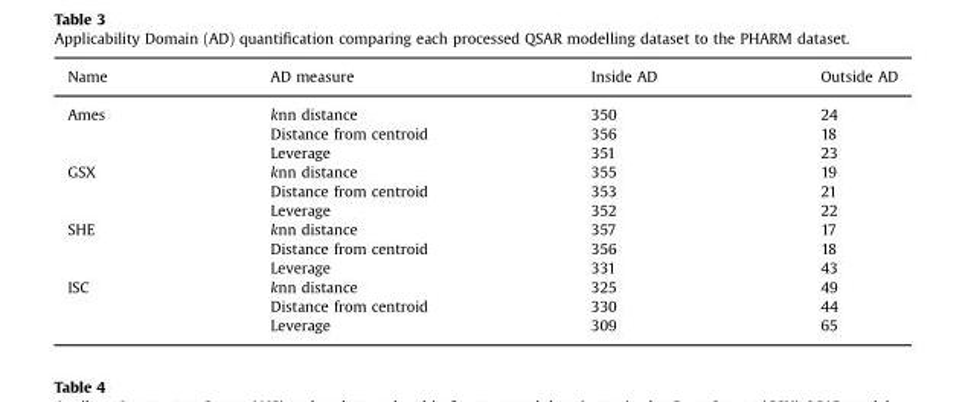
<table><thead><tr><td>Name</td><td>AD measure</td><td>Inside AD</td><td>Outside AD</td></tr></thead><tbody><tr><td rowspan="3">Ames</td><td>knn distance</td><td>350</td><td>24</td></tr><tr><td>Distance from centroid</td><td>356</td><td>18</td></tr><tr><td>Leverage</td><td>351</td><td>23</td></tr><tr><td rowspan="3">GSX</td><td>knn distance</td><td>355</td><td>19</td></tr><tr><td>Distance from centroid</td><td>353</td><td>21</td></tr><tr><td>Leverage</td><td>352</td><td>22</td></tr><tr><td rowspan="3">SHE</td><td>knn distance</td><td>357</td><td>17</td></tr><tr><td>Distance from centroid</td><td>356</td><td>18</td></tr><tr><td>Leverage</td><td>331</td><td>43</td></tr><tr><td rowspan="3">ISC</td><td>knn distance</td><td>325</td><td>49</td></tr><tr><td>Distance from centroid</td><td>330</td><td>44</td></tr><tr><td>Leverage</td><td>309</td><td>65</td></tr></tbody></table>